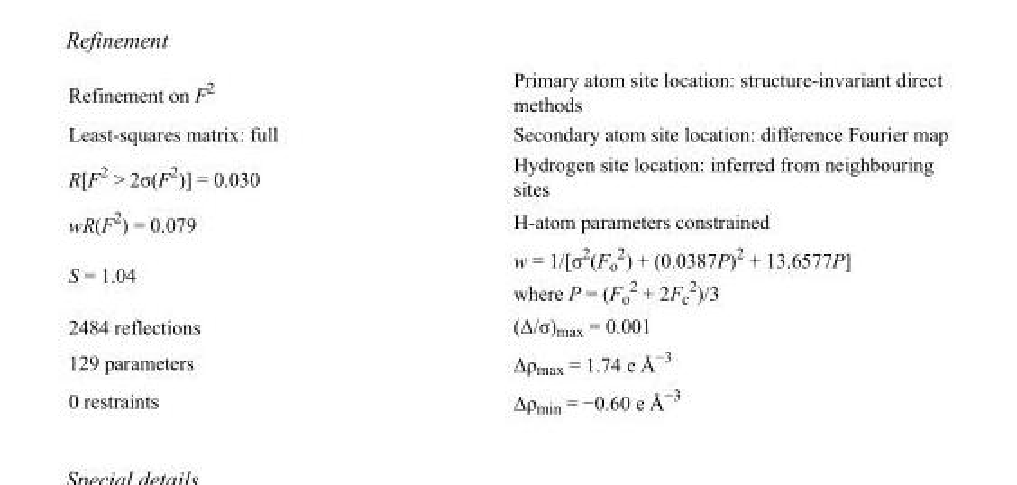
<table><tbody><tr><td>Refinement on F<sup>2</sup></td><td>Primary atom site location: structure-invariant direct methods</td></tr><tr><td>Least-squares matrix: full</td><td>Secondary atom site location: difference Fourier map</td></tr><tr><td>R[F<sup>2</sup> &gt; 2σ(F<sup>2</sup>)] = 0.030</td><td>Hydrogen site location: inferred from neighbouring sites</td></tr><tr><td>wR(F<sup>2</sup>) = 0.079</td><td>H-atom parameters constrained</td></tr><tr><td>S = 1.04</td><td>w = 1/[σ<sup>2</sup>(F<sub>o</sub> <sup>2</sup>) + (0.0387P)<sup>2</sup> + 13.6577P] where P = (F<sub>o</sub> <sup>2</sup> + 2F<sub>c</sub> <sup>2</sup>)/3</td></tr><tr><td>2484 reflections</td><td>(Δ/σ)<sub>max</sub> = 0.001</td></tr><tr><td>129 parameters</td><td>Δρ<sub>max</sub> = 1.74 e Å<sup>−3</sup></td></tr><tr><td>0 restraints</td><td>Δρ<sub>min</sub> = −0.60 e Å<sup>−3</sup></td></tr></tbody></table>